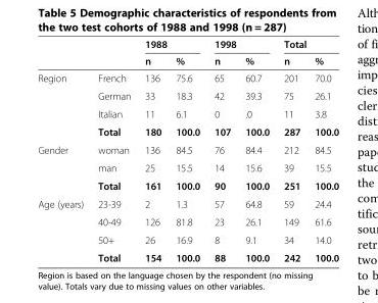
<table><thead><tr><td rowspan="2"></td><td rowspan="2"></td><td colspan="2">1988</td><td colspan="2">1998</td><td colspan="2">Total</td></tr><tr><td>n</td><td>%</td><td>n</td><td>%</td><td>n</td><td>%</td></tr></thead><tbody><tr><td rowspan="4">Region</td><td>French</td><td>136</td><td>75.6</td><td>65</td><td>60.7</td><td>201</td><td>70.0</td></tr><tr><td>German</td><td>33</td><td>18.3</td><td>42</td><td>39.3</td><td>75</td><td>26.1</td></tr><tr><td>Italian</td><td>11</td><td>6.1</td><td>0</td><td>.0</td><td>11</td><td>3.8</td></tr><tr><td>Total</td><td>180</td><td>100.0</td><td>107</td><td>100.0</td><td>287</td><td>100.0</td></tr><tr><td rowspan="3">Gender</td><td>woman</td><td>136</td><td>84.5</td><td>76</td><td>84.4</td><td>212</td><td>84.5</td></tr><tr><td>man</td><td>25</td><td>15.5</td><td>14</td><td>15.6</td><td>39</td><td>15.5</td></tr><tr><td>Total</td><td>161</td><td>100.0</td><td>90</td><td>100.0</td><td>251</td><td>100.0</td></tr><tr><td rowspan="4">Age (years)</td><td>23-39</td><td>2</td><td>1.3</td><td>57</td><td>64.8</td><td>59</td><td>24.4</td></tr><tr><td>40-49</td><td>126</td><td>81.8</td><td>23</td><td>26.1</td><td>149</td><td>61.6</td></tr><tr><td>50+</td><td>26</td><td>16.9</td><td>8</td><td>9.1</td><td>34</td><td>14.0</td></tr><tr><td>Total</td><td>154</td><td>100.0</td><td>88</td><td>100.0</td><td>242</td><td>100.0</td></tr></tbody></table>